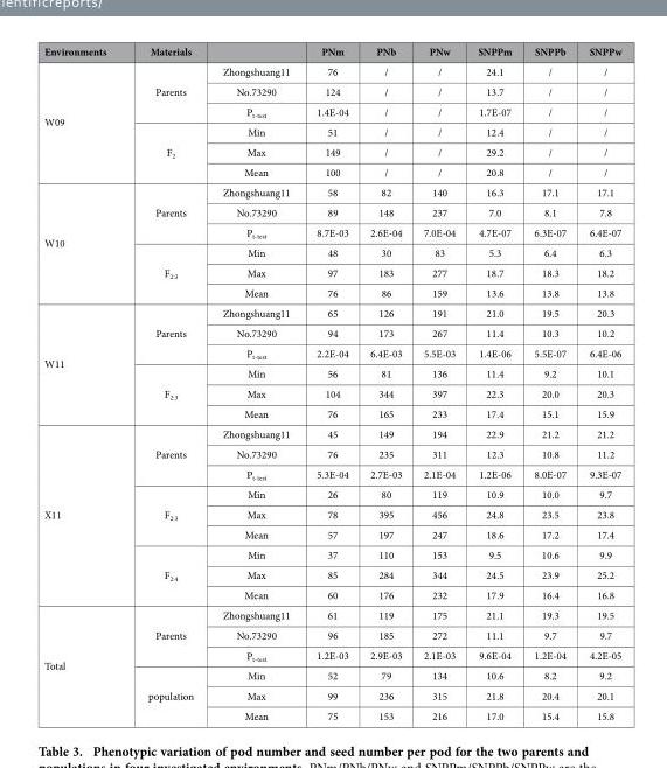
<table><thead><tr><td>Environments</td><td>Materials</td><td></td><td>PNm</td><td>PNb</td><td>PNw</td><td>SNPPm</td><td>SNPPb</td><td>SNPPw</td></tr></thead><tbody><tr><td rowspan="6">W09</td><td rowspan="3">Parents</td><td>Zhongshuang11</td><td>76</td><td>/</td><td>/</td><td>24.1</td><td>/</td><td>/</td></tr><tr><td>No.73290</td><td>124</td><td>/</td><td>/</td><td>13.7</td><td>/</td><td>/</td></tr><tr><td>P<sub>t-test</sub></td><td>1.4E-04</td><td>/</td><td>/</td><td>1.7E-07</td><td>/</td><td>/</td></tr><tr><td rowspan="3">F<sub>2</sub></td><td>Min</td><td>51</td><td>/</td><td>/</td><td>12.4</td><td>/</td><td>/</td></tr><tr><td>Max</td><td>149</td><td>/</td><td>/</td><td>29.2</td><td>/</td><td>/</td></tr><tr><td>Mean</td><td>100</td><td>/</td><td>/</td><td>20.8</td><td>/</td><td>/</td></tr><tr><td rowspan="6">W10</td><td rowspan="3">Parents</td><td>Zhongshuang11</td><td>58</td><td>82</td><td>140</td><td>16.3</td><td>17.1</td><td>17.1</td></tr><tr><td>No.73290</td><td>89</td><td>148</td><td>237</td><td>7.0</td><td>8.1</td><td>7.8</td></tr><tr><td>P<sub>t-test</sub></td><td>8.7E-03</td><td>2.6E-04</td><td>7.0E-04</td><td>4.7E-07</td><td>6.3E-07</td><td>6.4E-07</td></tr><tr><td rowspan="3">F<sub>2:3</sub></td><td>Min</td><td>48</td><td>30</td><td>83</td><td>5.3</td><td>6.4</td><td>6.3</td></tr><tr><td>Max</td><td>97</td><td>183</td><td>277</td><td>18.7</td><td>18.3</td><td>18.2</td></tr><tr><td>Mean</td><td>76</td><td>86</td><td>159</td><td>13.6</td><td>13.8</td><td>13.8</td></tr><tr><td rowspan="6">W11</td><td rowspan="3">Parents</td><td>Zhongshuang11</td><td>65</td><td>126</td><td>191</td><td>21.0</td><td>19.5</td><td>20.3</td></tr><tr><td>No.73290</td><td>94</td><td>173</td><td>267</td><td>11.4</td><td>10.3</td><td>10.2</td></tr><tr><td>P<sub>t-test</sub></td><td>2.2E-04</td><td>6.4E-03</td><td>5.5E-03</td><td>1.4E-06</td><td>5.5E-07</td><td>6.4E-06</td></tr><tr><td rowspan="3">F<sub>2:3</sub></td><td>Min</td><td>56</td><td>81</td><td>136</td><td>11.4</td><td>9.2</td><td>10.1</td></tr><tr><td>Max</td><td>104</td><td>344</td><td>397</td><td>22.3</td><td>20.0</td><td>20.3</td></tr><tr><td>Mean</td><td>76</td><td>165</td><td>233</td><td>17.4</td><td>15.1</td><td>15.9</td></tr><tr><td rowspan="9">X11</td><td rowspan="3">Parents</td><td>Zhongshuang11</td><td>45</td><td>149</td><td>194</td><td>22.9</td><td>21.2</td><td>21.2</td></tr><tr><td>No.73290</td><td>76</td><td>235</td><td>311</td><td>12.3</td><td>10.8</td><td>11.2</td></tr><tr><td>P<sub>t-test</sub></td><td>5.3E-04</td><td>2.7E-03</td><td>2.1E-04</td><td>1.2E-06</td><td>8.0E-07</td><td>9.3E-07</td></tr><tr><td rowspan="3">F<sub>2:3</sub></td><td>Min</td><td>26</td><td>80</td><td>119</td><td>10.9</td><td>10.0</td><td>9.7</td></tr><tr><td>Max</td><td>78</td><td>395</td><td>456</td><td>24.8</td><td>23.5</td><td>23.8</td></tr><tr><td>Mean</td><td>57</td><td>197</td><td>247</td><td>18.6</td><td>17.2</td><td>17.4</td></tr><tr><td rowspan="3">F<sub>2:4</sub></td><td>Min</td><td>37</td><td>110</td><td>153</td><td>9.5</td><td>10.6</td><td>9.9</td></tr><tr><td>Max</td><td>85</td><td>284</td><td>344</td><td>24.5</td><td>23.9</td><td>25.2</td></tr><tr><td>Mean</td><td>60</td><td>176</td><td>232</td><td>17.9</td><td>16.4</td><td>16.8</td></tr><tr><td rowspan="6">Total</td><td rowspan="3">Parents</td><td>Zhongshuang11</td><td>61</td><td>119</td><td>175</td><td>21.1</td><td>19.3</td><td>19.5</td></tr><tr><td>No.73290</td><td>96</td><td>185</td><td>272</td><td>11.1</td><td>9.7</td><td>9.7</td></tr><tr><td>P<sub>t-test</sub></td><td>1.2E-03</td><td>2.9E-03</td><td>2.1E-03</td><td>9.6E-04</td><td>1.2E-04</td><td>4.2E-05</td></tr><tr><td rowspan="3">population</td><td>Min</td><td>52</td><td>79</td><td>134</td><td>10.6</td><td>8.2</td><td>9.2</td></tr><tr><td>Max</td><td>99</td><td>236</td><td>315</td><td>21.8</td><td>20.4</td><td>20.1</td></tr><tr><td>Mean</td><td>75</td><td>153</td><td>216</td><td>17.0</td><td>15.4</td><td>15.8</td></tr></tbody></table>